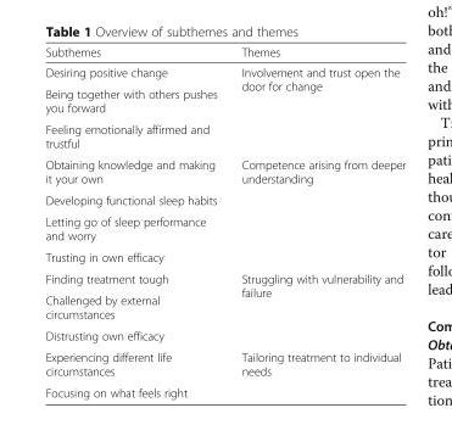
<table><thead><tr><td>Subthemes</td><td>Themes</td></tr></thead><tbody><tr><td>Desiring positive change</td><td rowspan="3">Involvement and trust open the door for change</td></tr><tr><td>Being together with others pushes you forward</td></tr><tr><td>Feeling emotionally affirmed and trustful</td></tr><tr><td>Obtaining knowledge and making it your own</td><td rowspan="4">Competence arising from deeper understanding</td></tr><tr><td>Developing functional sleep habits</td></tr><tr><td>Letting go of sleep performance and worry</td></tr><tr><td>Trusting in own efficacy</td></tr><tr><td>Finding treatment tough</td><td rowspan="3">Struggling with vulnerability and failure</td></tr><tr><td>Challenged by external circumstances</td></tr><tr><td>Distrusting own efficacy</td></tr><tr><td>Experiencing different life circumstances</td><td rowspan="2">Tailoring treatment to individual needs</td></tr><tr><td>Focusing on what feels right</td></tr></tbody></table>